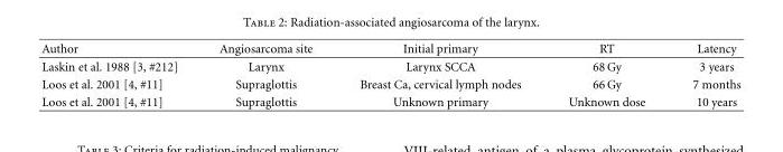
<table><thead><tr><td>Author</td><td>Angiosarcoma site</td><td>Initial primary</td><td>RT</td><td>Latency</td></tr></thead><tbody><tr><td>Laskin et al. 1988 [3, #212]</td><td>Larynx</td><td>Larynx SCCA</td><td>68 Gy</td><td>3 years</td></tr><tr><td>Loos et al. 2001 [4, #11]</td><td>Supraglottis</td><td>Breast Ca, cervical lymph nodes</td><td>66 Gy</td><td>7 months</td></tr><tr><td>Loos et al. 2001 [4, #11]</td><td>Supraglottis</td><td>Unknown primary</td><td>Unknown dose</td><td>10 years</td></tr></tbody></table>